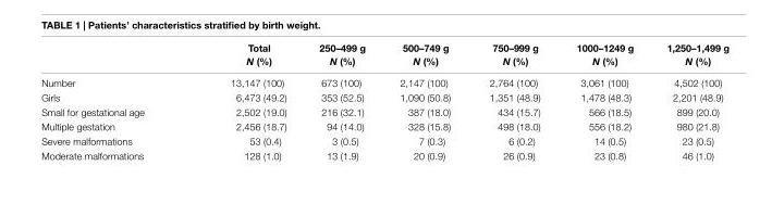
<table><thead><tr><td></td><td>Total N (%)</td><td>250–499 g N (%)</td><td>500–749 g N (%)</td><td>750–999 g N (%)</td><td>1000–1249 g N (%)</td><td>1,250–1,499 g N (%)</td></tr></thead><tbody><tr><td>Number</td><td>13,147 (100)</td><td>673 (100)</td><td>2,147 (100)</td><td>2,764 (100)</td><td>3,061 (100)</td><td>4,502 (100)</td></tr><tr><td>Girls</td><td>6,473 (49.2)</td><td>353 (52.5)</td><td>1,090 (50.8)</td><td>1,351 (48.9)</td><td>1,478 (48.3)</td><td>2,201 (48.9)</td></tr><tr><td>Small for gestational age</td><td>2,502 (19.0)</td><td>216 (32.1)</td><td>387 (18.0)</td><td>434 (15.7)</td><td>566 (18.5)</td><td>899 (20.0)</td></tr><tr><td>Multiple gestation</td><td>2,456 (18.7)</td><td>94 (14.0)</td><td>328 (15.8)</td><td>498 (18.0)</td><td>556 (18.2)</td><td>980 (21.8)</td></tr><tr><td>Severe malformations</td><td>53 (0.4)</td><td>3 (0.5)</td><td>7 (0.3)</td><td>6 (0.2)</td><td>14 (0.5)</td><td>23 (0.5)</td></tr><tr><td>Moderate malformations</td><td>128 (1.0)</td><td>13 (1.9)</td><td>20 (0.9)</td><td>26 (0.9)</td><td>23 (0.8)</td><td>46 (1.0)</td></tr></tbody></table>